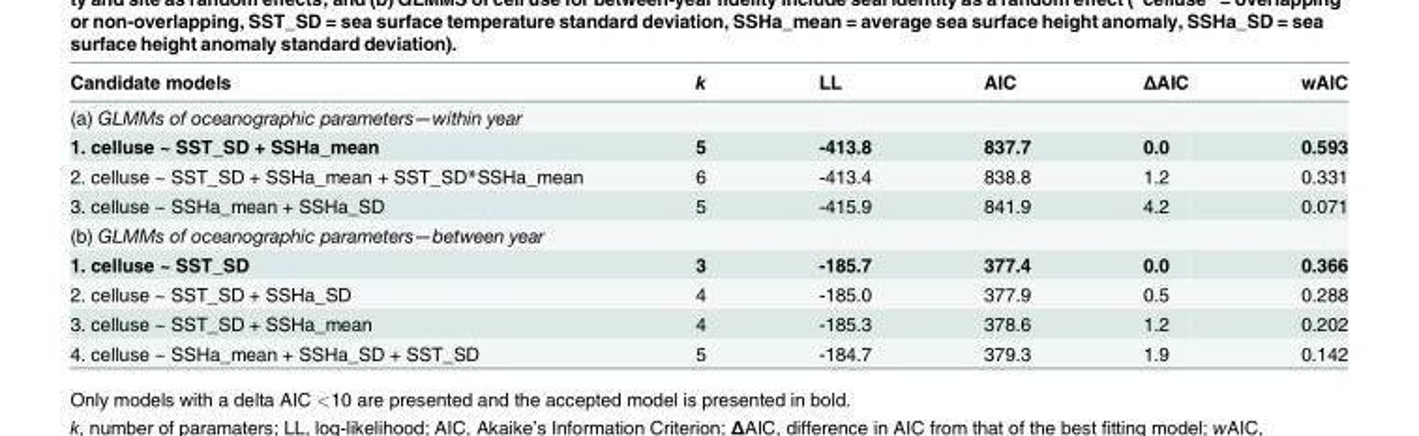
<table><thead><tr><td>Candidate models</td><td>k</td><td>LL</td><td>AIC</td><td>ΔAIC</td><td>wAIC</td></tr></thead><tbody><tr><td colspan="6">(a) GLMMs of oceanographic parameters—within year</td></tr><tr><td>1. celluse ~ SST_SD + SSHa_mean</td><td>5</td><td>-413.8</td><td>837.7</td><td>0.0</td><td>0.593</td></tr><tr><td>2. celluse ~ SST_SD + SSHa_mean + SST_SD*SSHa_mean</td><td>6</td><td>-413.4</td><td>838.8</td><td>1.2</td><td>0.331</td></tr><tr><td>3. celluse ~ SSHa_mean + SSHa_SD</td><td>5</td><td>-415.9</td><td>841.9</td><td>4.2</td><td>0.071</td></tr><tr><td colspan="6">(b) GLMMs of oceanographic parameters—between year</td></tr><tr><td>1. celluse ~ SST_SD</td><td>3</td><td>-185.7</td><td>377.4</td><td>0.0</td><td>0.366</td></tr><tr><td>2. celluse ~ SST_SD + SSHa_SD</td><td>4</td><td>-185.0</td><td>377.9</td><td>0.5</td><td>0.288</td></tr><tr><td>3. celluse ~ SST_SD + SSHa_mean</td><td>4</td><td>-185.3</td><td>378.6</td><td>1.2</td><td>0.202</td></tr><tr><td>4. celluse ~ SSHa_mean + SSHa_SD + SST_SD</td><td>5</td><td>-184.7</td><td>379.3</td><td>1.9</td><td>0.142</td></tr></tbody></table>